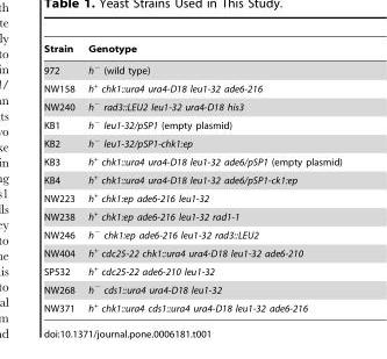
<table><thead><tr><td>Strain</td><td>Genotype</td></tr></thead><tbody><tr><td>972</td><td>h<sup>−</sup> (wild type)</td></tr><tr><td>NW158</td><td>h<sup>+</sup> chk1::ura4 ura4-D18 leu1-32 ade6-216</td></tr><tr><td>NW240</td><td>h<sup>−</sup> rad3::LEU2 leu1-32 ura4-D18 his3</td></tr><tr><td>KB1</td><td>h<sup>−</sup> leu1-32/pSP1 (empty plasmid)</td></tr><tr><td>KB2</td><td>h<sup>−</sup> leu1-32/pSP1-chk1:ep</td></tr><tr><td>KB3</td><td>h<sup>+</sup> chk1::ura4 ura4-D18 leu1-32 ade6/pSP1 (empty plasmid)</td></tr><tr><td>KB4</td><td>h<sup>+</sup> chk1::ura4 ura4-D18 leu1-32 ade6/pSP1-ck1:ep</td></tr><tr><td>NW223</td><td>h<sup>+</sup> chk1:ep ade6-216 leu1-32</td></tr><tr><td>NW238</td><td>h<sup>+</sup> chk1:ep ade6-216 leu1-32 rad1-1</td></tr><tr><td>NW246</td><td>h<sup>−</sup> chk1:ep ade6-216 leu1-32 rad3::LEU2</td></tr><tr><td>NW404</td><td>h<sup>+</sup> cdc25-22 chk1::ura4 ura4-D18 leu1-32 ade6-210</td></tr><tr><td>SP532</td><td>h<sup>+</sup> cdc25-22 ade6-210 leu1-32</td></tr><tr><td>NW268</td><td>h<sup>−</sup> cds1::ura4 ura4-D18 leu1-32</td></tr><tr><td>NW371</td><td>h<sup>+</sup> chk1::ura4 cds1::ura4 ura4-D18 leu1-32 ade6-216</td></tr></tbody></table>